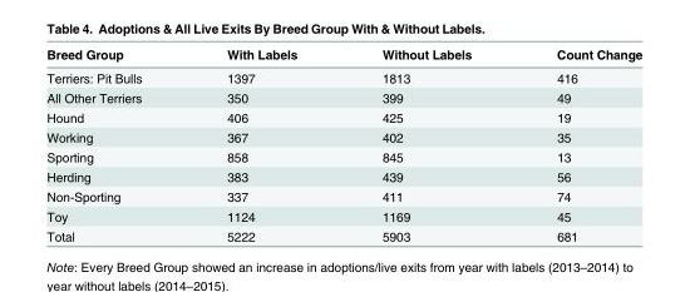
<table><thead><tr><td>Breed Group</td><td>With Labels</td><td>Without Labels</td><td>Count Change</td></tr></thead><tbody><tr><td>Terriers: Pit Bulls</td><td>1397</td><td>1813</td><td>416</td></tr><tr><td>All Other Terriers</td><td>350</td><td>399</td><td>49</td></tr><tr><td>Hound</td><td>406</td><td>425</td><td>19</td></tr><tr><td>Working</td><td>367</td><td>402</td><td>35</td></tr><tr><td>Sporting</td><td>858</td><td>845</td><td>13</td></tr><tr><td>Herding</td><td>383</td><td>439</td><td>56</td></tr><tr><td>Non-Sporting</td><td>337</td><td>411</td><td>74</td></tr><tr><td>Toy</td><td>1124</td><td>1169</td><td>45</td></tr><tr><td>Total</td><td>5222</td><td>5903</td><td>681</td></tr></tbody></table>